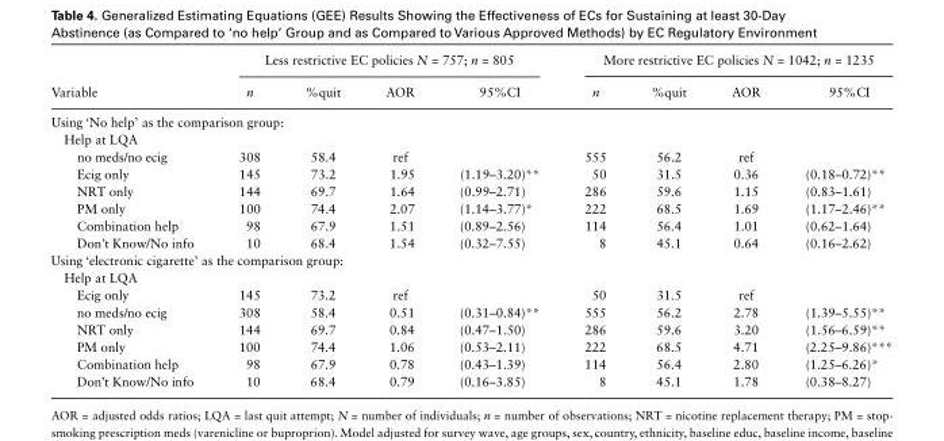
<table><thead><tr><td rowspan="2">Variable</td><td colspan="4">Less restrictive EC policies N = 757; n = 805</td><td colspan="4">More restrictive EC policies N = 1042; n = 1235</td></tr><tr><td>n</td><td>%quit</td><td>AOR</td><td>95%CI</td><td>n</td><td>%quit</td><td>AOR</td><td>95%CI</td></tr></thead><tbody><tr><td colspan="9">Using ‘No help’ as the comparison group:</td></tr><tr><td colspan="9">Help at LQA</td></tr><tr><td>no meds/no ecig</td><td>308</td><td>58.4</td><td>ref</td><td></td><td>555</td><td>56.2</td><td>ref</td><td></td></tr><tr><td>Ecig only</td><td>145</td><td>73.2</td><td>1.95</td><td>(1.19–3.20)**</td><td>50</td><td>31.5</td><td>0.36</td><td>(0.18–0.72)**</td></tr><tr><td>NRT only</td><td>144</td><td>69.7</td><td>1.64</td><td>(0.99–2.71)</td><td>286</td><td>59.6</td><td>1.15</td><td>(0.83–1.61)</td></tr><tr><td>PM only</td><td>100</td><td>74.4</td><td>2.07</td><td>(1.14–3.77)*</td><td>222</td><td>68.5</td><td>1.69</td><td>(1.17–2.46)**</td></tr><tr><td>Combination help</td><td>98</td><td>67.9</td><td>1.51</td><td>(0.89–2.56)</td><td>114</td><td>56.4</td><td>1.01</td><td>(0.62–1.64)</td></tr><tr><td>Don’t Know/No info</td><td>10</td><td>68.4</td><td>1.54</td><td>(0.32–7.55)</td><td>8</td><td>45.1</td><td>0.64</td><td>(0.16–2.62)</td></tr><tr><td colspan="9">Using ‘electronic cigarette’ as the comparison group:</td></tr><tr><td colspan="9">Help at LQA</td></tr><tr><td>Ecig only</td><td>145</td><td>73.2</td><td>ref</td><td></td><td>50</td><td>31.5</td><td>ref</td><td></td></tr><tr><td>no meds/no ecig</td><td>308</td><td>58.4</td><td>0.51</td><td>(0.31–0.84)**</td><td>555</td><td>56.2</td><td>2.78</td><td>(1.39–5.55)**</td></tr><tr><td>NRT only</td><td>144</td><td>69.7</td><td>0.84</td><td>(0.47–1.50)</td><td>286</td><td>59.6</td><td>3.20</td><td>(1.56–6.59)**</td></tr><tr><td>PM only</td><td>100</td><td>74.4</td><td>1.06</td><td>(0.53–2.11)</td><td>222</td><td>68.5</td><td>4.71</td><td>(2.25–9.86)***</td></tr><tr><td>Combination help</td><td>98</td><td>67.9</td><td>0.78</td><td>(0.43–1.39)</td><td>114</td><td>56.4</td><td>2.80</td><td>(1.25–6.26)*</td></tr><tr><td>Don’t Know/No info</td><td>10</td><td>68.4</td><td>0.79</td><td>(0.16–3.85)</td><td>8</td><td>45.1</td><td>1.78</td><td>(0.38–8.27)</td></tr></tbody></table>